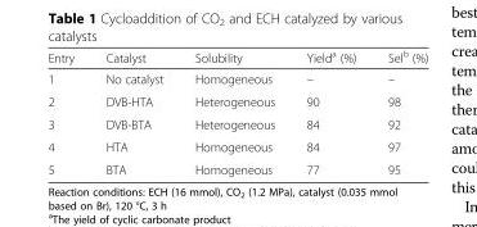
<table><thead><tr><td>Entry</td><td>Catalyst</td><td>Solubility</td><td>Yield<sup>a</sup> (%)</td><td>Sel<sup>b</sup> (%)</td></tr></thead><tbody><tr><td>1</td><td>No catalyst</td><td>Homogeneous</td><td>–</td><td>–</td></tr><tr><td>2</td><td>DVB-HTA</td><td>Heterogeneous</td><td>90</td><td>98</td></tr><tr><td>3</td><td>DVB-BTA</td><td>Heterogeneous</td><td>84</td><td>92</td></tr><tr><td>4</td><td>HTA</td><td>Homogeneous</td><td>84</td><td>97</td></tr><tr><td>5</td><td>BTA</td><td>Homogeneous</td><td>77</td><td>95</td></tr></tbody></table>